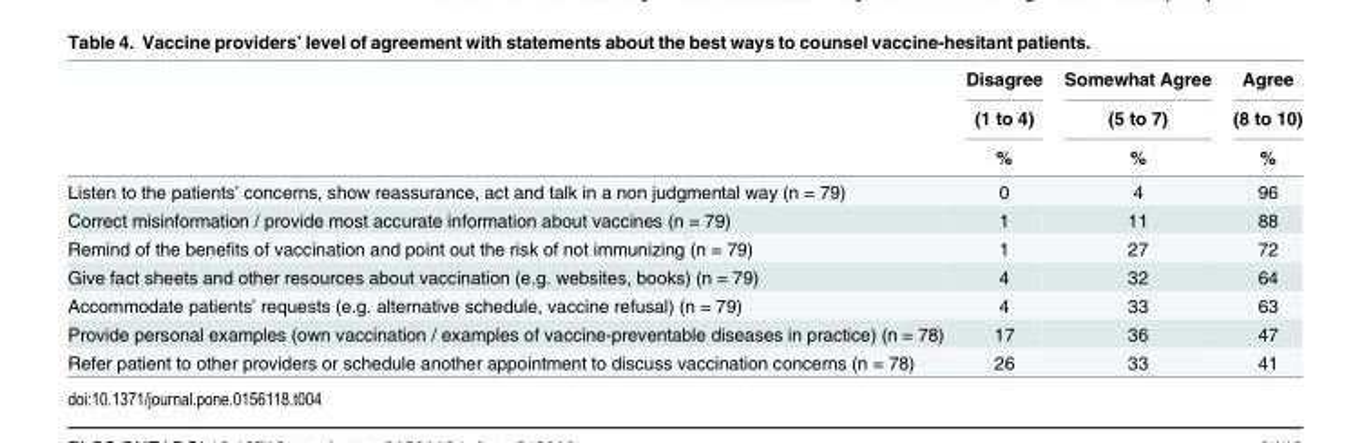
<table><thead><tr><td rowspan="3"></td><td rowspan="3">Disagree (1 to 4) %</td><td rowspan="3">Somewhat Agree (5 to 7) %</td><td rowspan="3">Agree (8 to 10) %</td></tr><tr></tr><tr></tr></thead><tbody><tr><td>Listen to the patients’ concerns, show reassurance, act and talk in a non judgmental way (n = 79)</td><td>0</td><td>4</td><td>96</td></tr><tr><td>Correct misinformation / provide most accurate information about vaccines (n = 79)</td><td>1</td><td>11</td><td>88</td></tr><tr><td>Remind of the benefits of vaccination and point out the risk of not immunizing (n = 79)</td><td>1</td><td>27</td><td>72</td></tr><tr><td>Give fact sheets and other resources about vaccination (e.g. websites, books) (n = 79)</td><td>4</td><td>32</td><td>64</td></tr><tr><td>Accommodate patients’ requests (e.g. alternative schedule, vaccine refusal) (n = 79)</td><td>4</td><td>33</td><td>63</td></tr><tr><td>Provide personal examples (own vaccination / examples of vaccine-preventable diseases in practice) (n = 78)</td><td>17</td><td>36</td><td>47</td></tr><tr><td>Refer patient to other providers or schedule another appointment to discuss vaccination concerns (n = 78)</td><td>26</td><td>33</td><td>41</td></tr></tbody></table>